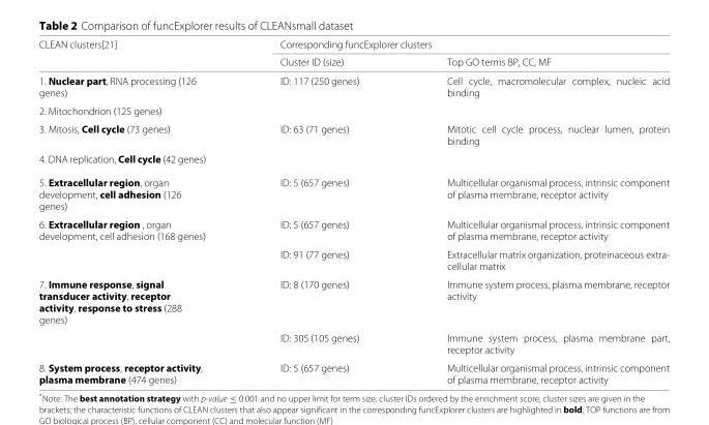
<table><thead><tr><td rowspan="2">CLEAN clusters[21]</td><td colspan="2">Corresponding funcExplorer clusters</td></tr><tr><td>Cluster ID (size)</td><td>Top GO terms BP, CC, MF</td></tr></thead><tbody><tr><td>1. Nuclear part, RNA processing (126 genes)</td><td>ID: 117 (250 genes)</td><td>Cell cycle, macromolecular complex, nucleic acid binding</td></tr><tr><td colspan="3">2. Mitochondrion (125 genes)</td></tr><tr><td>3. Mitosis, Cell cycle (73 genes)</td><td>ID: 63 (71 genes)</td><td>Mitotic cell cycle process, nuclear lumen, protein binding</td></tr><tr><td colspan="3">4. DNA replication, Cell cycle (42 genes)</td></tr><tr><td>5. Extracellular region, organ development, cell adhesion (126 genes)</td><td>ID: 5 (657 genes)</td><td>Multicellular organismal process, intrinsic component of plasma membrane, receptor activity</td></tr><tr><td rowspan="2">6. Extracellular region , organ development, cell adhesion (168 genes)</td><td>ID: 5 (657 genes)</td><td>Multicellular organismal process, intrinsic component of plasma membrane, receptor activity</td></tr><tr><td>ID: 91 (77 genes)</td><td>Extracellular matrix organization, proteinaceous extra- cellular matrix</td></tr><tr><td rowspan="2">7. Immune response, signal transducer activity, receptor activity, response to stress (288 genes)</td><td>ID: 8 (170 genes)</td><td>Immune system process, plasma membrane, receptor activity</td></tr><tr><td>ID: 305 (105 genes)</td><td>Immune system process, plasma membrane part, receptor activity</td></tr><tr><td>8. System process, receptor activity, plasma membrane (474 genes)</td><td>ID: 5 (657 genes)</td><td>Multicellular organismal process, intrinsic component of plasma membrane, receptor activity</td></tr></tbody></table>